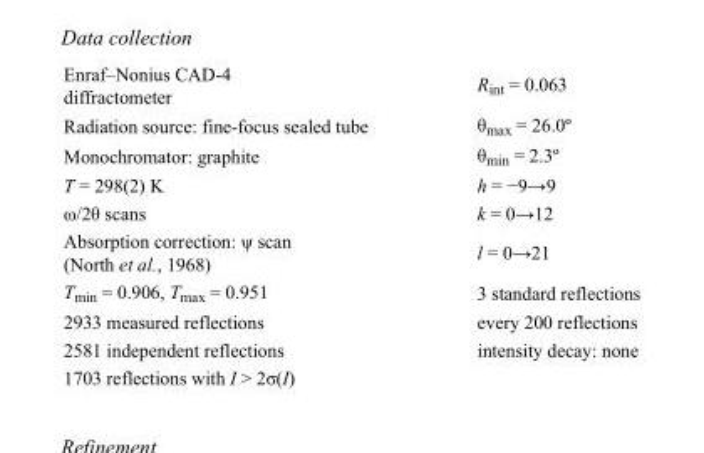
<table><tbody><tr><td>Enraf–Nonius CAD-4 diffractometer</td><td>R<sub>int</sub> = 0.063</td></tr><tr><td>Radiation source: fine-focus sealed tube</td><td>θ<sub>max</sub> = 26.0º</td></tr><tr><td>Monochromator: graphite</td><td>θ<sub>min</sub> = 2.3º</td></tr><tr><td>T = 298(2) K</td><td>h = −9→9</td></tr><tr><td>ω/2θ scans</td><td>k = 0→12</td></tr><tr><td>Absorption correction: ψ scan (North et al., 1968)</td><td>l = 0→21</td></tr><tr><td>T<sub>min</sub> = 0.906, T<sub>max</sub> = 0.951</td><td>3 standard reflections</td></tr><tr><td>2933 measured reflections</td><td>every 200 reflections</td></tr><tr><td>2581 independent reflections</td><td>intensity decay: none</td></tr><tr><td>1703 reflections with I &gt; 2σ(I)</td><td></td></tr></tbody></table>